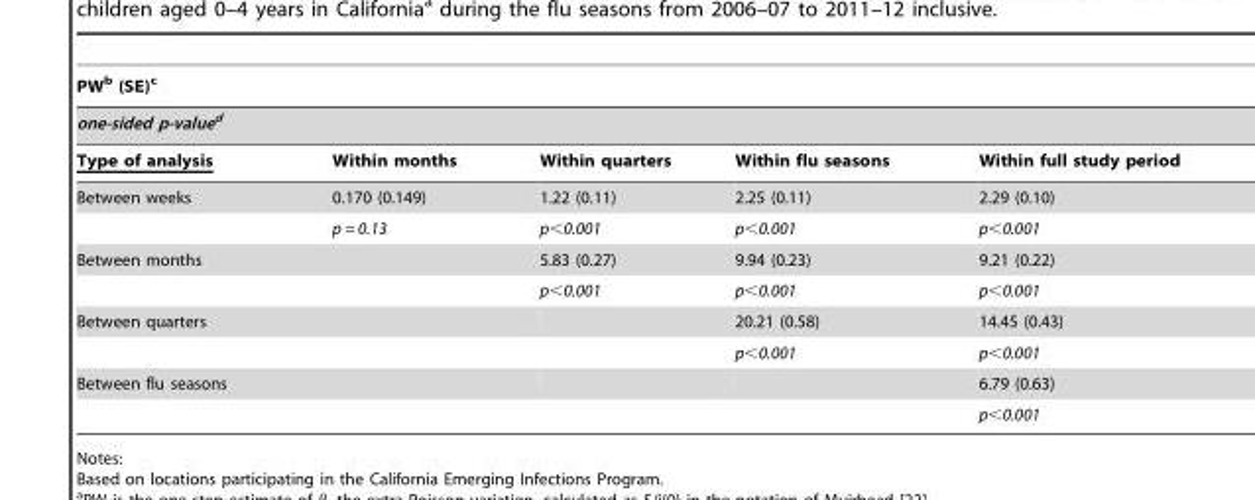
<table><thead><tr><td rowspan="2" colspan="5">PW<sup>b</sup> (SE)<sup>c</sup> one-sided p-value<sup>d</sup></td></tr><tr></tr><tr><td>Type of analysis</td><td>Within months</td><td>Within quarters</td><td>Within flu seasons</td><td>Within full study period</td></tr></thead><tbody><tr><td rowspan="2">Between weeks</td><td>0.170 (0.149)</td><td>1.22 (0.11)</td><td>2.25 (0.11)</td><td>2.29 (0.10)</td></tr><tr><td>p = 0.13</td><td>p&lt;0.001</td><td>p&lt;0.001</td><td>p&lt;0.001</td></tr><tr><td rowspan="2">Between months</td><td></td><td>5.83 (0.27)</td><td>9.94 (0.23)</td><td>9.21 (0.22)</td></tr><tr><td></td><td>p&lt;0.001</td><td>p&lt;0.001</td><td>p&lt;0.001</td></tr><tr><td rowspan="2">Between quarters</td><td></td><td></td><td>20.21 (0.58)</td><td>14.45 (0.43)</td></tr><tr><td></td><td></td><td>p&lt;0.001</td><td>p&lt;0.001</td></tr><tr><td rowspan="2">Between flu seasons</td><td></td><td></td><td></td><td>6.79 (0.63)</td></tr><tr><td></td><td></td><td></td><td>p&lt;0.001</td></tr></tbody></table>